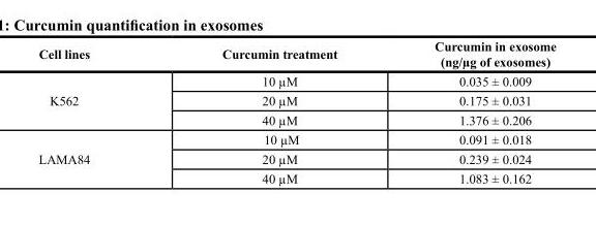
<table><thead><tr><td>Cell lines</td><td>Curcumin treatment</td><td>Curcumin in exosome (ng/µg of exosomes)</td></tr></thead><tbody><tr><td rowspan="3">K562</td><td>10 µM</td><td>0.035 ± 0.009</td></tr><tr><td>20 µM</td><td>0.175 ± 0.031</td></tr><tr><td>40 µM</td><td>1.376 ± 0.206</td></tr><tr><td rowspan="3">LAMA84</td><td>10 µM</td><td>0.091 ± 0.018</td></tr><tr><td>20 µM</td><td>0.239 ± 0.024</td></tr><tr><td>40 µM</td><td>1.083 ± 0.162</td></tr></tbody></table>